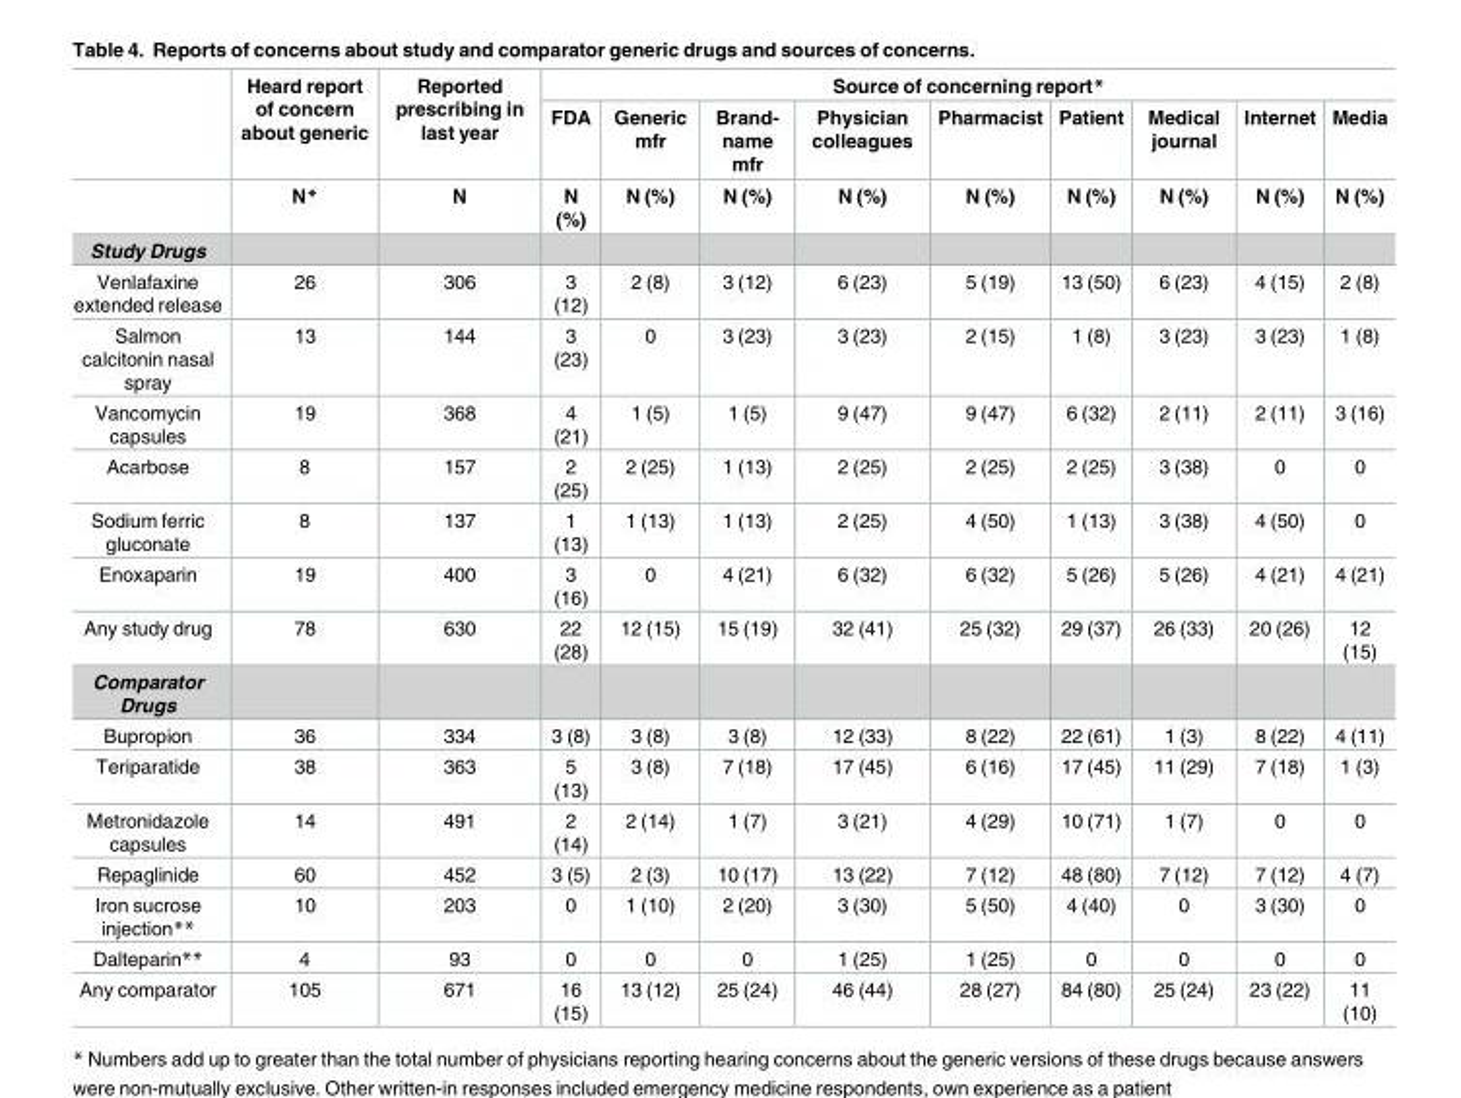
<table><thead><tr><td rowspan="3"></td><td rowspan="3">Heard report of concern about generic N*</td><td rowspan="3">Reported prescribing in last year N</td><td colspan="9">Source of concerning report*</td></tr><tr><td rowspan="2">FDA N (%)</td><td rowspan="2">Generic mfr N (%)</td><td rowspan="2">Brand- name mfr N (%)</td><td rowspan="2">Physician colleagues N (%)</td><td rowspan="2">Pharmacist N (%)</td><td rowspan="2">Patient N (%)</td><td rowspan="2">Medical journal N (%)</td><td rowspan="2">Internet N (%)</td><td rowspan="2">Media N (%)</td></tr><tr></tr></thead><tbody><tr><td colspan="12">Study Drugs</td></tr><tr><td>Venlafaxine extended release</td><td>26</td><td>306</td><td>3 (12)</td><td>2 (8)</td><td>3 (12)</td><td>6 (23)</td><td>5 (19)</td><td>13 (50)</td><td>6 (23)</td><td>4 (15)</td><td>2 (8)</td></tr><tr><td>Salmon calcitonin nasal spray</td><td>13</td><td>144</td><td>3 (23)</td><td>0</td><td>3 (23)</td><td>3 (23)</td><td>2 (15)</td><td>1 (8)</td><td>3 (23)</td><td>3 (23)</td><td>1 (8)</td></tr><tr><td>Vancomycin capsules</td><td>19</td><td>368</td><td>4 (21)</td><td>1 (5)</td><td>1 (5)</td><td>9 (47)</td><td>9 (47)</td><td>6 (32)</td><td>2 (11)</td><td>2 (11)</td><td>3 (16)</td></tr><tr><td>Acarbose</td><td>8</td><td>157</td><td>2 (25)</td><td>2 (25)</td><td>1 (13)</td><td>2 (25)</td><td>2 (25)</td><td>2 (25)</td><td>3 (38)</td><td>0</td><td>0</td></tr><tr><td>Sodium ferric gluconate</td><td>8</td><td>137</td><td>1 (13)</td><td>1 (13)</td><td>1 (13)</td><td>2 (25)</td><td>4 (50)</td><td>1 (13)</td><td>3 (38)</td><td>4 (50)</td><td>0</td></tr><tr><td>Enoxaparin</td><td>19</td><td>400</td><td>3 (16)</td><td>0</td><td>4 (21)</td><td>6 (32)</td><td>6 (32)</td><td>5 (26)</td><td>5 (26)</td><td>4 (21)</td><td>4 (21)</td></tr><tr><td>Any study drug</td><td>78</td><td>630</td><td>22 (28)</td><td>12 (15)</td><td>15 (19)</td><td>32 (41)</td><td>25 (32)</td><td>29 (37)</td><td>26 (33)</td><td>20 (26)</td><td>12 (15)</td></tr><tr><td colspan="12">Comparator Drugs</td></tr><tr><td>Bupropion</td><td>36</td><td>334</td><td>3 (8)</td><td>3 (8)</td><td>3 (8)</td><td>12 (33)</td><td>8 (22)</td><td>22 (61)</td><td>1 (3)</td><td>8 (22)</td><td>4 (11)</td></tr><tr><td>Teriparatide</td><td>38</td><td>363</td><td>5 (13)</td><td>3 (8)</td><td>7 (18)</td><td>17 (45)</td><td>6 (16)</td><td>17 (45)</td><td>11 (29)</td><td>7 (18)</td><td>1 (3)</td></tr><tr><td>Metronidazole capsules</td><td>14</td><td>491</td><td>2 (14)</td><td>2 (14)</td><td>1 (7)</td><td>3 (21)</td><td>4 (29)</td><td>10 (71)</td><td>1 (7)</td><td>0</td><td>0</td></tr><tr><td>Repaglinide</td><td>60</td><td>452</td><td>3 (5)</td><td>2 (3)</td><td>10 (17)</td><td>13 (22)</td><td>7 (12)</td><td>48 (80)</td><td>7 (12)</td><td>7 (12)</td><td>4 (7)</td></tr><tr><td>Iron sucrose injection**</td><td>10</td><td>203</td><td>0</td><td>1 (10)</td><td>2 (20)</td><td>3 (30)</td><td>5 (50)</td><td>4 (40)</td><td>0</td><td>3 (30)</td><td>0</td></tr><tr><td>Dalteparin**</td><td>4</td><td>93</td><td>0</td><td>0</td><td>0</td><td>1 (25)</td><td>1 (25)</td><td>0</td><td>0</td><td>0</td><td>0</td></tr><tr><td>Any comparator</td><td>105</td><td>671</td><td>16 (15)</td><td>13 (12)</td><td>25 (24)</td><td>46 (44)</td><td>28 (27)</td><td>84 (80)</td><td>25 (24)</td><td>23 (22)</td><td>11 (10)</td></tr></tbody></table>